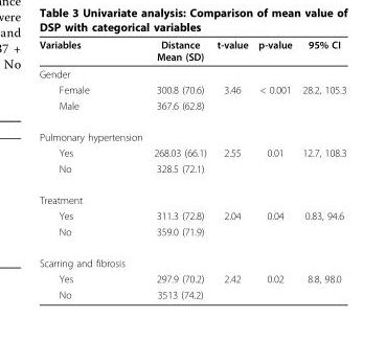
<table><thead><tr><td>Variables</td><td>Distance Mean (SD)</td><td>t-value</td><td>p-value</td><td>95% CI</td></tr></thead><tbody><tr><td colspan="5">Gender</td></tr><tr><td>Female</td><td>300.8 (70.6)</td><td>3.46</td><td>&lt; 0.001</td><td>28.2, 105.3</td></tr><tr><td>Male</td><td>367.6 (62.8)</td><td></td><td></td><td></td></tr><tr><td colspan="5">Pulmonary hypertension</td></tr><tr><td>Yes</td><td>268.03 (66.1)</td><td>2.55</td><td>0.01</td><td>12.7, 108.3</td></tr><tr><td>No</td><td>328.5 (72.1)</td><td></td><td></td><td></td></tr><tr><td colspan="5">Treatment</td></tr><tr><td>Yes</td><td>311.3 (72.8)</td><td>2.04</td><td>0.04</td><td>0.83, 94.6</td></tr><tr><td>No</td><td>359.0 (71.9)</td><td></td><td></td><td></td></tr><tr><td colspan="5">Scarring and fibrosis</td></tr><tr><td>Yes</td><td>297.9 (70.2)</td><td>2.42</td><td>0.02</td><td>8.8, 98.0</td></tr><tr><td>No</td><td>3513 (74.2)</td><td></td><td></td><td></td></tr></tbody></table>